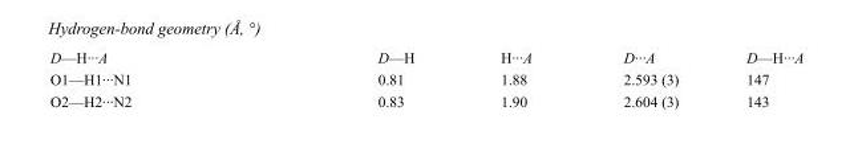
<table><tbody><tr><td>D—H···A</td><td>D—H</td><td>H···A</td><td>D···A</td><td>D—H···A</td></tr><tr><td>O1—H1···N1</td><td>0.81</td><td>1.88</td><td>2.593 (3)</td><td>147</td></tr><tr><td>O2—H2···N2</td><td>0.83</td><td>1.90</td><td>2.604 (3)</td><td>143</td></tr></tbody></table>